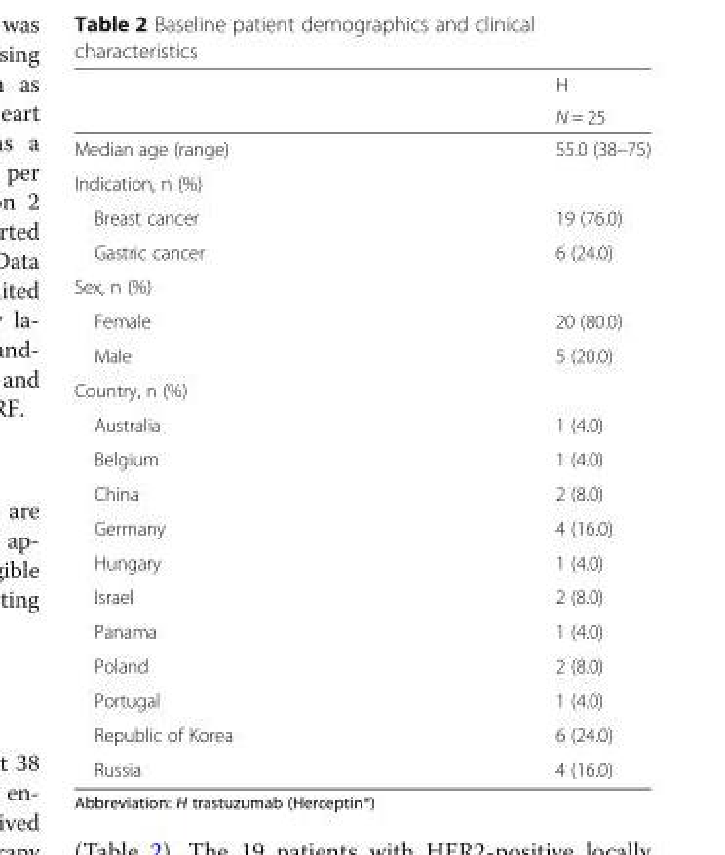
<table><thead><tr><td rowspan="2"></td><td rowspan="2">H N = 25</td></tr><tr></tr></thead><tbody><tr><td>Median age (range)</td><td>55.0 (38–75)</td></tr><tr><td colspan="2">Indication, n (%)</td></tr><tr><td>Breast cancer</td><td>19 (76.0)</td></tr><tr><td>Gastric cancer</td><td>6 (24.0)</td></tr><tr><td colspan="2">Sex, n (%)</td></tr><tr><td>Female</td><td>20 (80.0)</td></tr><tr><td>Male</td><td>5 (20.0)</td></tr><tr><td colspan="2">Country, n (%)</td></tr><tr><td>Australia</td><td>1 (4.0)</td></tr><tr><td>Belgium</td><td>1 (4.0)</td></tr><tr><td>China</td><td>2 (8.0)</td></tr><tr><td>Germany</td><td>4 (16.0)</td></tr><tr><td>Hungary</td><td>1 (4.0)</td></tr><tr><td>Israel</td><td>2 (8.0)</td></tr><tr><td>Panama</td><td>1 (4.0)</td></tr><tr><td>Poland</td><td>2 (8.0)</td></tr><tr><td>Portugal</td><td>1 (4.0)</td></tr><tr><td>Republic of Korea</td><td>6 (24.0)</td></tr><tr><td>Russia</td><td>4 (16.0)</td></tr></tbody></table>